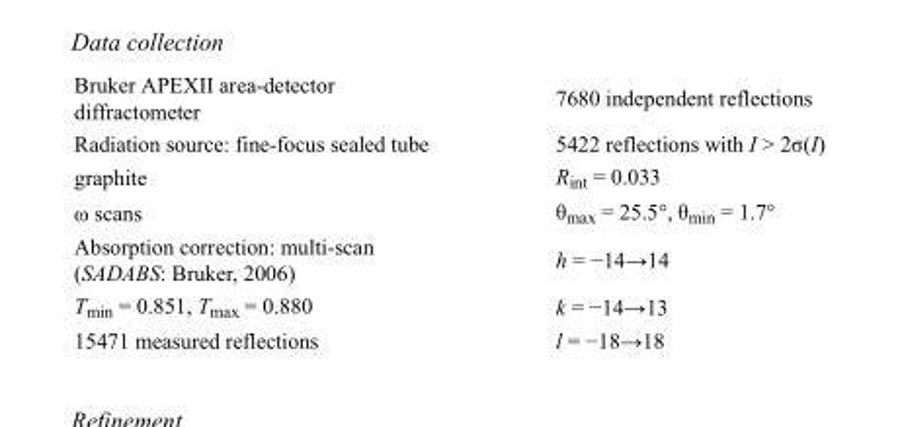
<table><tbody><tr><td>Bruker APEXII area-detector diffractometer</td><td>7680 independent reflections</td></tr><tr><td>Radiation source: fine-focus sealed tube</td><td>5422 reflections with I &gt; 2σ(I)</td></tr><tr><td>graphite</td><td>R<sub>int</sub> = 0.033</td></tr><tr><td>ω scans</td><td>θ<sub>max</sub> = 25.5°, θ<sub>min</sub> = 1.7°</td></tr><tr><td>Absorption correction: multi-scan (SADABS: Bruker, 2006)</td><td>h = −14→14</td></tr><tr><td>T<sub>min</sub> = 0.851, T<sub>max</sub> = 0.880</td><td>k = −14→13</td></tr><tr><td>15471 measured reflections</td><td>l = −18→18</td></tr></tbody></table>